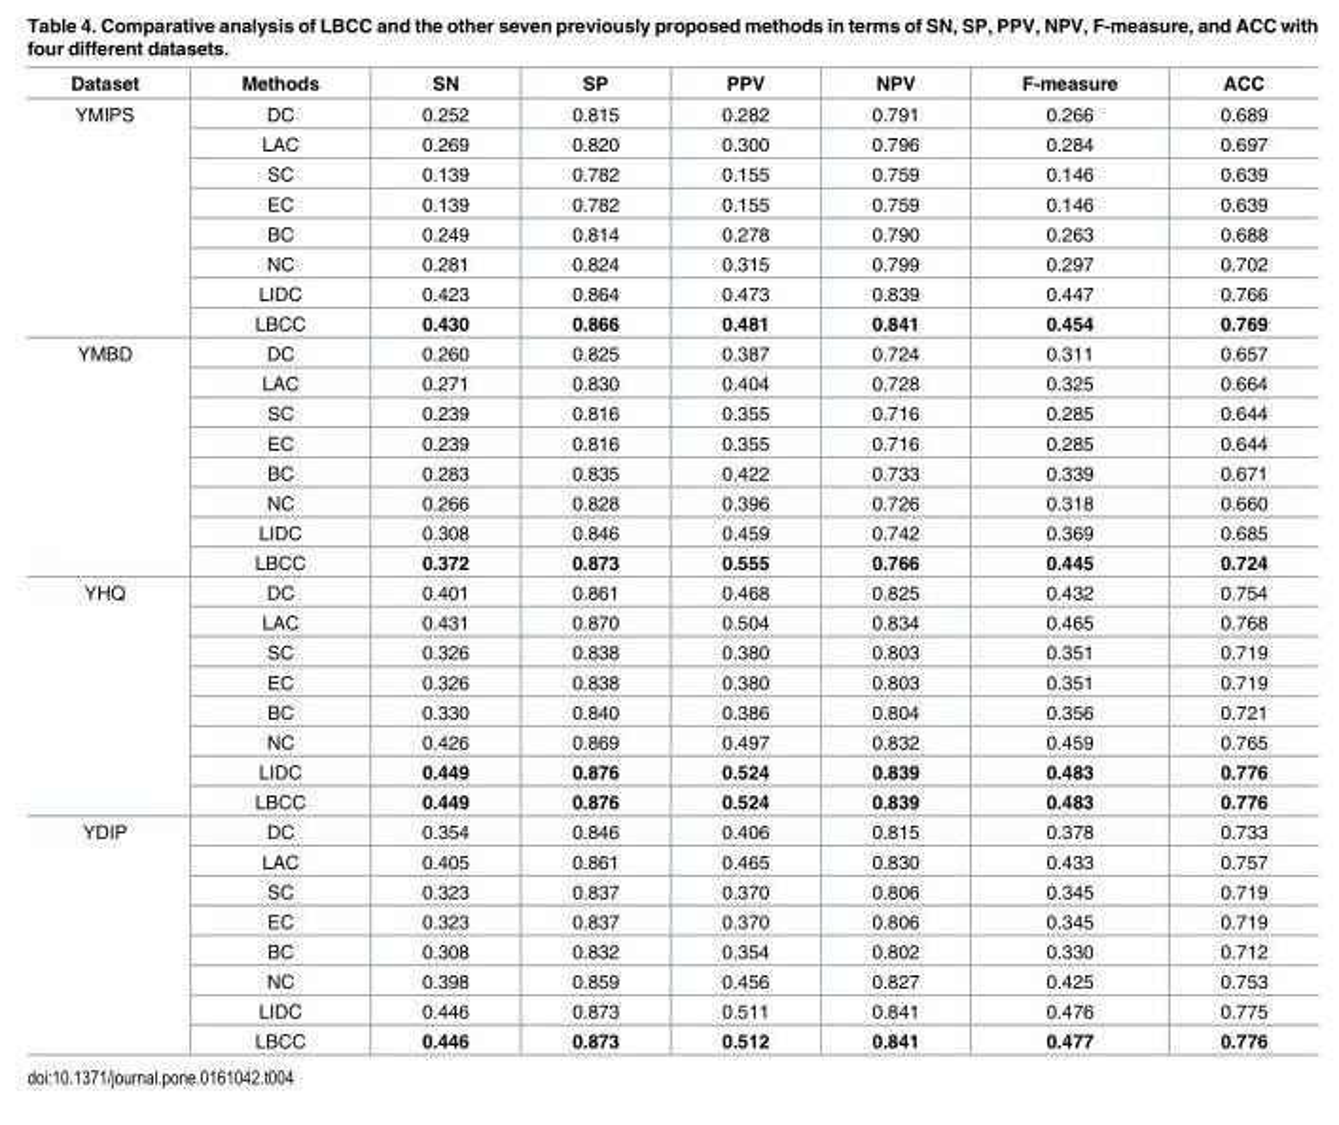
<table><thead><tr><td>Dataset</td><td>Methods</td><td>SN</td><td>SP</td><td>PPV</td><td>NPV</td><td>F-measure</td><td>ACC</td></tr></thead><tbody><tr><td rowspan="8">YMIPS</td><td>DC</td><td>0.252</td><td>0.815</td><td>0.282</td><td>0.791</td><td>0.266</td><td>0.689</td></tr><tr><td>LAC</td><td>0.269</td><td>0.820</td><td>0.300</td><td>0.796</td><td>0.284</td><td>0.697</td></tr><tr><td>SC</td><td>0.139</td><td>0.782</td><td>0.155</td><td>0.759</td><td>0.146</td><td>0.639</td></tr><tr><td>EC</td><td>0.139</td><td>0.782</td><td>0.155</td><td>0.759</td><td>0.146</td><td>0.639</td></tr><tr><td>BC</td><td>0.249</td><td>0.814</td><td>0.278</td><td>0.790</td><td>0.263</td><td>0.688</td></tr><tr><td>NC</td><td>0.281</td><td>0.824</td><td>0.315</td><td>0.799</td><td>0.297</td><td>0.702</td></tr><tr><td>LIDC</td><td>0.423</td><td>0.864</td><td>0.473</td><td>0.839</td><td>0.447</td><td>0.766</td></tr><tr><td>LBCC</td><td>0.430</td><td>0.866</td><td>0.481</td><td>0.841</td><td>0.454</td><td>0.769</td></tr><tr><td rowspan="8">YMBD</td><td>DC</td><td>0.260</td><td>0.825</td><td>0.387</td><td>0.724</td><td>0.311</td><td>0.657</td></tr><tr><td>LAC</td><td>0.271</td><td>0.830</td><td>0.404</td><td>0.728</td><td>0.325</td><td>0.664</td></tr><tr><td>SC</td><td>0.239</td><td>0.816</td><td>0.355</td><td>0.716</td><td>0.285</td><td>0.644</td></tr><tr><td>EC</td><td>0.239</td><td>0.816</td><td>0.355</td><td>0.716</td><td>0.285</td><td>0.644</td></tr><tr><td>BC</td><td>0.283</td><td>0.835</td><td>0.422</td><td>0.733</td><td>0.339</td><td>0.671</td></tr><tr><td>NC</td><td>0.266</td><td>0.828</td><td>0.396</td><td>0.726</td><td>0.318</td><td>0.660</td></tr><tr><td>LIDC</td><td>0.308</td><td>0.846</td><td>0.459</td><td>0.742</td><td>0.369</td><td>0.685</td></tr><tr><td>LBCC</td><td>0.372</td><td>0.873</td><td>0.555</td><td>0.766</td><td>0.445</td><td>0.724</td></tr><tr><td rowspan="8">YHQ</td><td>DC</td><td>0.401</td><td>0.861</td><td>0.468</td><td>0.825</td><td>0.432</td><td>0.754</td></tr><tr><td>LAC</td><td>0.431</td><td>0.870</td><td>0.504</td><td>0.834</td><td>0.465</td><td>0.768</td></tr><tr><td>SC</td><td>0.326</td><td>0.838</td><td>0.380</td><td>0.803</td><td>0.351</td><td>0.719</td></tr><tr><td>EC</td><td>0.326</td><td>0.838</td><td>0.380</td><td>0.803</td><td>0.351</td><td>0.719</td></tr><tr><td>BC</td><td>0.330</td><td>0.840</td><td>0.386</td><td>0.804</td><td>0.356</td><td>0.721</td></tr><tr><td>NC</td><td>0.426</td><td>0.869</td><td>0.497</td><td>0.832</td><td>0.459</td><td>0.765</td></tr><tr><td>LIDC</td><td>0.449</td><td>0.876</td><td>0.524</td><td>0.839</td><td>0.483</td><td>0.776</td></tr><tr><td>LBCC</td><td>0.449</td><td>0.876</td><td>0.524</td><td>0.839</td><td>0.483</td><td>0.776</td></tr><tr><td rowspan="8">YDIP</td><td>DC</td><td>0.354</td><td>0.846</td><td>0.406</td><td>0.815</td><td>0.378</td><td>0.733</td></tr><tr><td>LAC</td><td>0.405</td><td>0.861</td><td>0.465</td><td>0.830</td><td>0.433</td><td>0.757</td></tr><tr><td>SC</td><td>0.323</td><td>0.837</td><td>0.370</td><td>0.806</td><td>0.345</td><td>0.719</td></tr><tr><td>EC</td><td>0.323</td><td>0.837</td><td>0.370</td><td>0.806</td><td>0.345</td><td>0.719</td></tr><tr><td>BC</td><td>0.308</td><td>0.832</td><td>0.354</td><td>0.802</td><td>0.330</td><td>0.712</td></tr><tr><td>NC</td><td>0.398</td><td>0.859</td><td>0.456</td><td>0.827</td><td>0.425</td><td>0.753</td></tr><tr><td>LIDC</td><td>0.446</td><td>0.873</td><td>0.511</td><td>0.841</td><td>0.476</td><td>0.775</td></tr><tr><td>LBCC</td><td>0.446</td><td>0.873</td><td>0.512</td><td>0.841</td><td>0.477</td><td>0.776</td></tr></tbody></table>